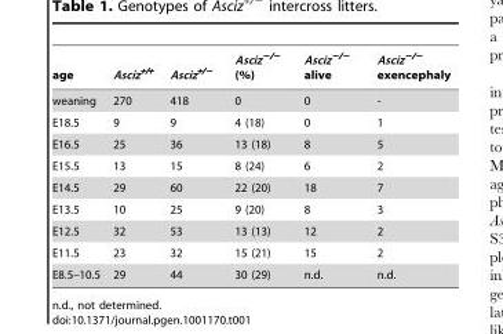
<table><thead><tr><td>age</td><td>Asciz<sup>+/+</sup></td><td>Asciz<sup>+/−</sup></td><td>Asciz<sup>−/−</sup> (%)</td><td>Asciz<sup>−/−</sup> alive</td><td>Asciz<sup>−/−</sup> exencephaly</td></tr></thead><tbody><tr><td>weaning</td><td>270</td><td>418</td><td>0</td><td>0</td><td>-</td></tr><tr><td>E18.5</td><td>9</td><td>9</td><td>4 (18)</td><td>0</td><td>1</td></tr><tr><td>E16.5</td><td>25</td><td>36</td><td>13 (18)</td><td>8</td><td>5</td></tr><tr><td>E15.5</td><td>13</td><td>15</td><td>8 (24)</td><td>6</td><td>2</td></tr><tr><td>E14.5</td><td>29</td><td>60</td><td>22 (20)</td><td>18</td><td>7</td></tr><tr><td>E13.5</td><td>10</td><td>25</td><td>9 (20)</td><td>8</td><td>3</td></tr><tr><td>E12.5</td><td>32</td><td>53</td><td>13 (13)</td><td>12</td><td>2</td></tr><tr><td>E11.5</td><td>23</td><td>32</td><td>15 (21)</td><td>15</td><td>2</td></tr><tr><td>E8.5–10.5</td><td>29</td><td>44</td><td>30 (29)</td><td>n.d.</td><td>n.d.</td></tr></tbody></table>